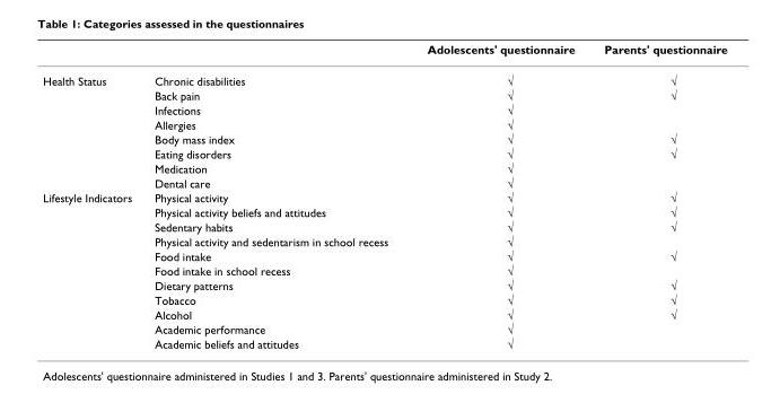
<table><thead><tr><td></td><td></td><td>Adolescents&#x27; questionnaire</td><td>Parents&#x27; questionnaire</td></tr></thead><tbody><tr><td rowspan="8">Health Status</td><td>Chronic disabilities</td><td>√</td><td>√</td></tr><tr><td>Back pain</td><td>√</td><td>√</td></tr><tr><td>Infections</td><td>√</td><td></td></tr><tr><td>Allergies</td><td>√</td><td></td></tr><tr><td>Body mass index</td><td>√</td><td>√</td></tr><tr><td>Eating disorders</td><td>√</td><td>√</td></tr><tr><td>Medication</td><td>√</td><td></td></tr><tr><td>Dental care</td><td>√</td><td></td></tr><tr><td rowspan="11">Lifestyle Indicators</td><td>Physical activity</td><td>√</td><td>√</td></tr><tr><td>Physical activity beliefs and attitudes</td><td>√</td><td>√</td></tr><tr><td>Sedentary habits</td><td>√</td><td>√</td></tr><tr><td>Physical activity and sedentarism in school recess</td><td>√</td><td></td></tr><tr><td>Food intake</td><td>√</td><td>√</td></tr><tr><td>Food intake in school recess</td><td>√</td><td></td></tr><tr><td>Dietary patterns</td><td>√</td><td>√</td></tr><tr><td>Tobacco</td><td>√</td><td>√</td></tr><tr><td>Alcohol</td><td>√</td><td>√</td></tr><tr><td>Academic performance</td><td>√</td><td></td></tr><tr><td>Academic beliefs and attitudes</td><td>√</td><td></td></tr></tbody></table>